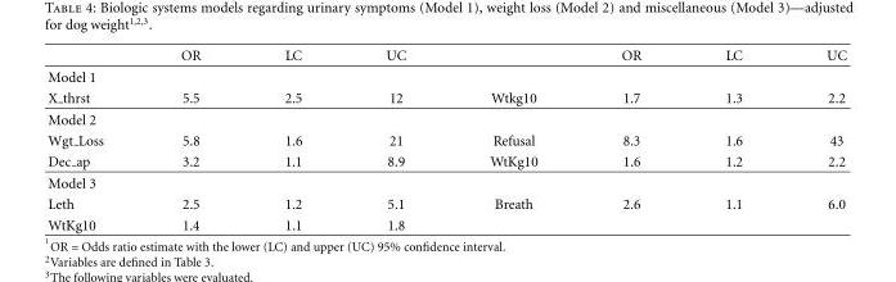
<table><thead><tr><td></td><td>OR</td><td>LC</td><td>UC</td><td></td><td>OR</td><td>LC</td><td>UC</td></tr></thead><tbody><tr><td colspan="8">Model 1</td></tr><tr><td>X thrst</td><td>5.5</td><td>2.5</td><td>12</td><td>Wtkg10</td><td>1.7</td><td>1.3</td><td>2.2</td></tr><tr><td colspan="8">Model 2</td></tr><tr><td>Wgt Loss</td><td>5.8</td><td>1.6</td><td>21</td><td>Refusal</td><td>8.3</td><td>1.6</td><td>43</td></tr><tr><td>Dec ap</td><td>3.2</td><td>1.1</td><td>8.9</td><td>WtKg10</td><td>1.6</td><td>1.2</td><td>2.2</td></tr><tr><td colspan="8">Model 3</td></tr><tr><td>Leth</td><td>2.5</td><td>1.2</td><td>5.1</td><td>Breath</td><td>2.6</td><td>1.1</td><td>6.0</td></tr><tr><td>WtKg10</td><td>1.4</td><td>1.1</td><td>1.8</td><td></td><td></td><td></td><td></td></tr></tbody></table>